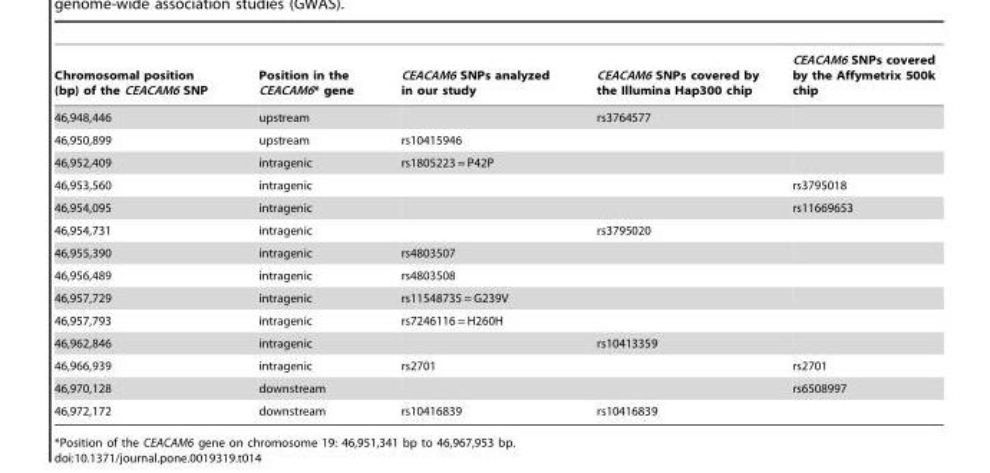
<table><thead><tr><td>Chromosomal position (bp) of the CEACAM6 SNP</td><td>Position in the CEACAM6* gene</td><td>CEACAM6 SNPs analyzed in our study</td><td>CEACAM6 SNPs covered by the Illumina Hap300 chip</td><td>CEACAM6 SNPs covered by the Affymetrix 500k chip</td></tr></thead><tbody><tr><td>46,948,446</td><td>upstream</td><td></td><td>rs3764577</td><td></td></tr><tr><td>46,950,899</td><td>upstream</td><td>rs10415946</td><td></td><td></td></tr><tr><td>46,952,409</td><td>intragenic</td><td>rs1805223 = P42P</td><td></td><td></td></tr><tr><td>46,953,560</td><td>intragenic</td><td></td><td></td><td>rs3795018</td></tr><tr><td>46,954,095</td><td>intragenic</td><td></td><td></td><td>rs11669653</td></tr><tr><td>46,954,731</td><td>intragenic</td><td></td><td>rs3795020</td><td></td></tr><tr><td>46,955,390</td><td>intragenic</td><td>rs4803507</td><td></td><td></td></tr><tr><td>46,956,489</td><td>intragenic</td><td>rs4803508</td><td></td><td></td></tr><tr><td>46,957,729</td><td>intragenic</td><td>rs11548735 = G239V</td><td></td><td></td></tr><tr><td>46,957,793</td><td>intragenic</td><td>rs7246116 = H260H</td><td></td><td></td></tr><tr><td>46,962,846</td><td>intragenic</td><td></td><td>rs10413359</td><td></td></tr><tr><td>46,966,939</td><td>intragenic</td><td>rs2701</td><td></td><td>rs2701</td></tr><tr><td>46,970,128</td><td>downstream</td><td></td><td></td><td>rs6508997</td></tr><tr><td>46,972,172</td><td>downstream</td><td>rs10416839</td><td>rs10416839</td><td></td></tr></tbody></table>